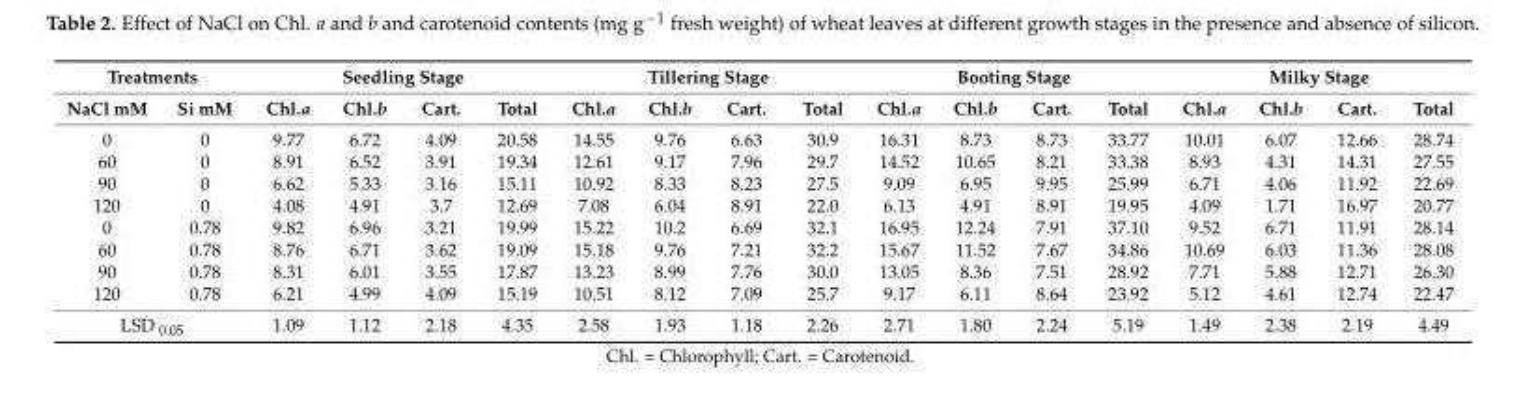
<table><thead><tr><td colspan="2">Treatments</td><td colspan="4">Seedling Stage</td><td colspan="4">Tillering Stage</td><td colspan="4">Booting Stage</td><td colspan="4">Milky Stage</td></tr><tr><td>NaCl mM</td><td>Si mM</td><td>Chl.a</td><td>Chl.b</td><td>Cart.</td><td>Total</td><td>Chl.a</td><td>Chl.b</td><td>Cart.</td><td>Total</td><td>Chl.a</td><td>Chl.b</td><td>Cart.</td><td>Total</td><td>Chl.a</td><td>Chl.b</td><td>Cart.</td><td>Total</td></tr></thead><tbody><tr><td>0</td><td>0</td><td>9.77</td><td>6.72</td><td>4.09</td><td>20.58</td><td>14.55</td><td>9.76</td><td>6.63</td><td>30.9</td><td>16.31</td><td>8.73</td><td>8.73</td><td>33.77</td><td>10.01</td><td>6.07</td><td>12.66</td><td>28.74</td></tr><tr><td>60</td><td>0</td><td>8.91</td><td>6.52</td><td>3.91</td><td>19.34</td><td>12.61</td><td>9.17</td><td>7.96</td><td>29.7</td><td>14.52</td><td>10.65</td><td>8.21</td><td>33.38</td><td>8.93</td><td>4.31</td><td>14.31</td><td>27.55</td></tr><tr><td>90</td><td>0</td><td>6.62</td><td>5.33</td><td>3.16</td><td>15.11</td><td>10.92</td><td>8.33</td><td>8.23</td><td>27.5</td><td>9.09</td><td>6.95</td><td>9.95</td><td>25.99</td><td>6.71</td><td>4.06</td><td>11.92</td><td>22.69</td></tr><tr><td>120</td><td>0</td><td>4.08</td><td>4.91</td><td>3.7</td><td>12.69</td><td>7.08</td><td>6.04</td><td>8.91</td><td>22.0</td><td>6.13</td><td>4.91</td><td>8.91</td><td>19.95</td><td>4.09</td><td>1.71</td><td>16.97</td><td>20.77</td></tr><tr><td>0</td><td>0.78</td><td>9.82</td><td>6.96</td><td>3.21</td><td>19.99</td><td>15.22</td><td>10.2</td><td>6.69</td><td>32.1</td><td>16.95</td><td>12.24</td><td>7.91</td><td>37.10</td><td>9.52</td><td>6.71</td><td>11.91</td><td>28.14</td></tr><tr><td>60</td><td>0.78</td><td>8.76</td><td>6.71</td><td>3.62</td><td>19.09</td><td>15.18</td><td>9.76</td><td>7.21</td><td>32.2</td><td>15.67</td><td>11.52</td><td>7.67</td><td>34.86</td><td>10.69</td><td>6.03</td><td>11.36</td><td>28.08</td></tr><tr><td>90</td><td>0.78</td><td>8.31</td><td>6.01</td><td>3.55</td><td>17.87</td><td>13.23</td><td>8.99</td><td>7.76</td><td>30.0</td><td>13.05</td><td>8.36</td><td>7.51</td><td>28.92</td><td>7.71</td><td>5.88</td><td>12.71</td><td>26.30</td></tr><tr><td>120</td><td>0.78</td><td>6.21</td><td>4.99</td><td>4.09</td><td>15.19</td><td>10.51</td><td>8.12</td><td>7.09</td><td>25.7</td><td>9.17</td><td>6.11</td><td>8.64</td><td>23.92</td><td>5.12</td><td>4.61</td><td>12.74</td><td>22.47</td></tr><tr><td colspan="2">LSD <sub>0.05</sub></td><td>1.09</td><td>1.12</td><td>2.18</td><td>4.35</td><td>2.58</td><td>1.93</td><td>1.18</td><td>2.26</td><td>2.71</td><td>1.80</td><td>2.24</td><td>5.19</td><td>1.49</td><td>2.38</td><td>2.19</td><td>4.49</td></tr></tbody></table>